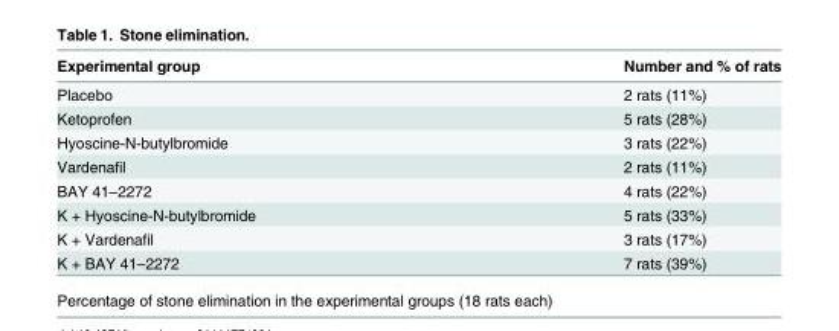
<table><thead><tr><td>Experimental group</td><td>Number and % of rats</td></tr></thead><tbody><tr><td>Placebo</td><td>2 rats (11%)</td></tr><tr><td>Ketoprofen</td><td>5 rats (28%)</td></tr><tr><td>Hyoscine-N-butylbromide</td><td>3 rats (22%)</td></tr><tr><td>Vardenafil</td><td>2 rats (11%)</td></tr><tr><td>BAY 41–2272</td><td>4 rats (22%)</td></tr><tr><td>K + Hyoscine-N-butylbromide</td><td>5 rats (33%)</td></tr><tr><td>K + Vardenafil</td><td>3 rats (17%)</td></tr><tr><td>K + BAY 41–2272</td><td>7 rats (39%)</td></tr></tbody></table>